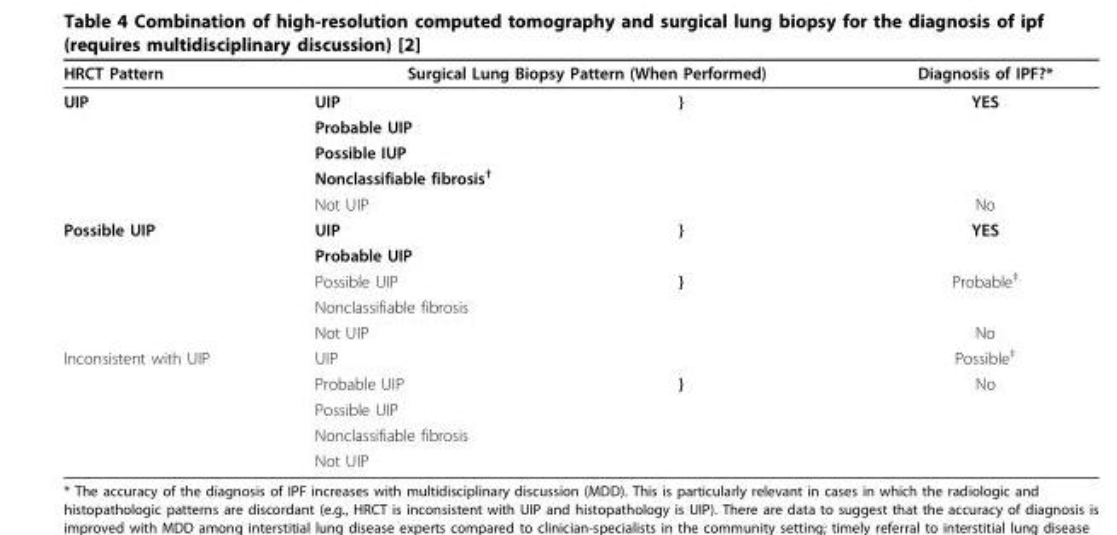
<table><thead><tr><td rowspan="2">HRCT Pattern UIP</td><td colspan="2">Surgical Lung Biopsy Pattern (When Performed)</td><td rowspan="2">Diagnosis of IPF?* YES</td></tr><tr><td>UIP</td><td>}</td></tr></thead><tbody><tr><td></td><td>Probable UIP</td><td></td><td></td></tr><tr><td></td><td>Possible IUP</td><td></td><td></td></tr><tr><td></td><td>Nonclassifiable fibrosis<sup>†</sup></td><td></td><td></td></tr><tr><td></td><td>Not UIP</td><td></td><td>No</td></tr><tr><td rowspan="5">Possible UIP</td><td>UIP</td><td>}</td><td>YES</td></tr><tr><td>Probable UIP</td><td></td><td></td></tr><tr><td>Possible UIP</td><td>}</td><td>Probable<sup>‡</sup></td></tr><tr><td>Nonclassifiable fibrosis</td><td></td><td></td></tr><tr><td>Not UIP</td><td></td><td>No</td></tr><tr><td rowspan="5">Inconsistent with UIP</td><td>UIP</td><td></td><td>Possible<sup>‡</sup></td></tr><tr><td>Probable UIP</td><td>}</td><td>No</td></tr><tr><td>Possible UIP</td><td></td><td></td></tr><tr><td>Nonclassifiable fibrosis</td><td></td><td></td></tr><tr><td>Not UIP</td><td></td><td></td></tr></tbody></table>